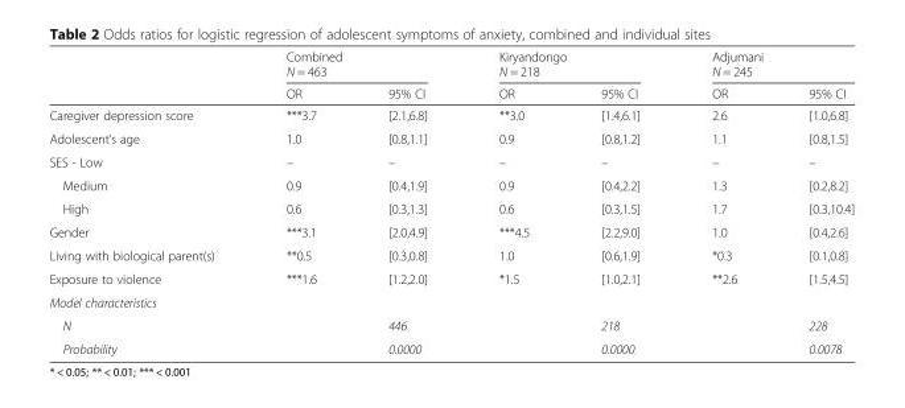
<table><thead><tr><td rowspan="2"></td><td colspan="2">Combined N = 463</td><td colspan="2">Kiryandongo N = 218</td><td colspan="2">Adjumani N = 245</td></tr><tr><td>OR</td><td>95% CI</td><td>OR</td><td>95% CI</td><td>OR</td><td>95% CI</td></tr></thead><tbody><tr><td>Caregiver depression score</td><td>***3.7</td><td>[2.1,6.8]</td><td>**3.0</td><td>[1.4,6.1]</td><td>2.6</td><td>[1.0,6.8]</td></tr><tr><td>Adolescent’s age</td><td>1.0</td><td>[0.8,1.1]</td><td>0.9</td><td>[0.8,1.2]</td><td>1.1</td><td>[0.8,1.5]</td></tr><tr><td>SES - Low</td><td>–</td><td>–</td><td>–</td><td>–</td><td>–</td><td>–</td></tr><tr><td>Medium</td><td>0.9</td><td>[0.4,1.9]</td><td>0.9</td><td>[0.4,2.2]</td><td>1.3</td><td>[0.2,8.2]</td></tr><tr><td>High</td><td>0.6</td><td>[0.3,1.3]</td><td>0.6</td><td>[0.3,1.5]</td><td>1.7</td><td>[0.3,10.4]</td></tr><tr><td>Gender</td><td>***3.1</td><td>[2.0,4.9]</td><td>***4.5</td><td>[2.2,9.0]</td><td>1.0</td><td>[0.4,2.6]</td></tr><tr><td>Living with biological parent(s)</td><td>**0.5</td><td>[0.3,0.8]</td><td>1.0</td><td>[0.6,1.9]</td><td>*0.3</td><td>[0.1,0.8]</td></tr><tr><td>Exposure to violence</td><td>***1.6</td><td>[1.2,2.0]</td><td>*1.5</td><td>[1.0,2.1]</td><td>**2.6</td><td>[1.5,4.5]</td></tr><tr><td colspan="7">Model characteristics</td></tr><tr><td>N</td><td></td><td>446</td><td></td><td>218</td><td></td><td>228</td></tr><tr><td>Probability</td><td></td><td>0.0000</td><td></td><td>0.0000</td><td></td><td>0.0078</td></tr></tbody></table>